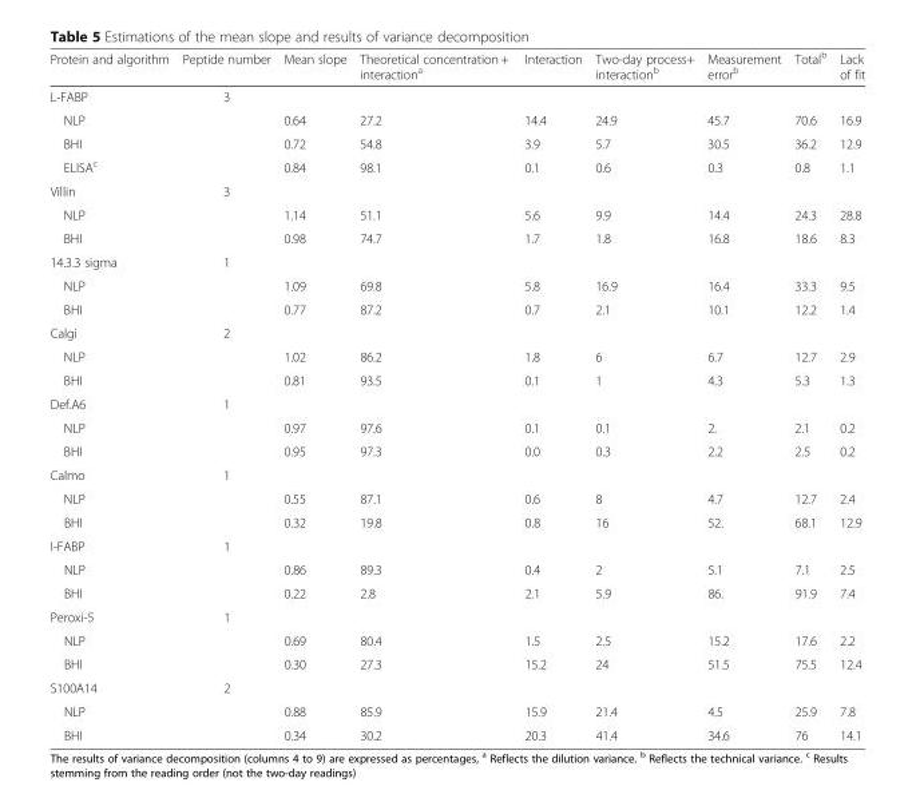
<table><thead><tr><td>Protein and algorithm</td><td>Peptide number</td><td>Mean slope</td><td>Theoretical concentration + interaction<sup>a</sup></td><td>Interaction</td><td>Two-day process+ interaction<sup>b</sup></td><td>Measurement error<sup>b</sup></td><td>Total<sup>b</sup></td><td>Lack of fit</td></tr></thead><tbody><tr><td>L-FABP</td><td>3</td><td></td><td></td><td></td><td></td><td></td><td></td><td></td></tr><tr><td>NLP</td><td></td><td>0.64</td><td>27.2</td><td>14.4</td><td>24.9</td><td>45.7</td><td>70.6</td><td>16.9</td></tr><tr><td>BHI</td><td></td><td>0.72</td><td>54.8</td><td>3.9</td><td>5.7</td><td>30.5</td><td>36.2</td><td>12.9</td></tr><tr><td>ELISA<sup>c</sup></td><td></td><td>0.84</td><td>98.1</td><td>0.1</td><td>0.6</td><td>0.3</td><td>0.8</td><td>1.1</td></tr><tr><td>Villin</td><td>3</td><td></td><td></td><td></td><td></td><td></td><td></td><td></td></tr><tr><td>NLP</td><td></td><td>1.14</td><td>51.1</td><td>5.6</td><td>9.9</td><td>14.4</td><td>24.3</td><td>28.8</td></tr><tr><td>BHI</td><td></td><td>0.98</td><td>74.7</td><td>1.7</td><td>1.8</td><td>16.8</td><td>18.6</td><td>8.3</td></tr><tr><td>14.3.3 sigma</td><td>1</td><td></td><td></td><td></td><td></td><td></td><td></td><td></td></tr><tr><td>NLP</td><td></td><td>1.09</td><td>69.8</td><td>5.8</td><td>16.9</td><td>16.4</td><td>33.3</td><td>9.5</td></tr><tr><td>BHI</td><td></td><td>0.77</td><td>87.2</td><td>0.7</td><td>2.1</td><td>10.1</td><td>12.2</td><td>1.4</td></tr><tr><td>Calgi</td><td>2</td><td></td><td></td><td></td><td></td><td></td><td></td><td></td></tr><tr><td>NLP</td><td></td><td>1.02</td><td>86.2</td><td>1.8</td><td>6</td><td>6.7</td><td>12.7</td><td>2.9</td></tr><tr><td>BHI</td><td></td><td>0.81</td><td>93.5</td><td>0.1</td><td>1</td><td>4.3</td><td>5.3</td><td>1.3</td></tr><tr><td>Def.A6</td><td>1</td><td></td><td></td><td></td><td></td><td></td><td></td><td></td></tr><tr><td>NLP</td><td></td><td>0.97</td><td>97.6</td><td>0.1</td><td>0.1</td><td>2.</td><td>2.1</td><td>0.2</td></tr><tr><td>BHI</td><td></td><td>0.95</td><td>97.3</td><td>0.0</td><td>0.3</td><td>2.2</td><td>2.5</td><td>0.2</td></tr><tr><td>Calmo</td><td>1</td><td></td><td></td><td></td><td></td><td></td><td></td><td></td></tr><tr><td>NLP</td><td></td><td>0.55</td><td>87.1</td><td>0.6</td><td>8</td><td>4.7</td><td>12.7</td><td>2.4</td></tr><tr><td>BHI</td><td></td><td>0.32</td><td>19.8</td><td>0.8</td><td>16</td><td>52.</td><td>68.1</td><td>12.9</td></tr><tr><td>I-FABP</td><td>1</td><td></td><td></td><td></td><td></td><td></td><td></td><td></td></tr><tr><td>NLP</td><td></td><td>0.86</td><td>89.3</td><td>0.4</td><td>2</td><td>5.1</td><td>7.1</td><td>2.5</td></tr><tr><td>BHI</td><td></td><td>0.22</td><td>2.8</td><td>2.1</td><td>5.9</td><td>86.</td><td>91.9</td><td>7.4</td></tr><tr><td>Peroxi-5</td><td>1</td><td></td><td></td><td></td><td></td><td></td><td></td><td></td></tr><tr><td>NLP</td><td></td><td>0.69</td><td>80.4</td><td>1.5</td><td>2.5</td><td>15.2</td><td>17.6</td><td>2.2</td></tr><tr><td>BHI</td><td></td><td>0.30</td><td>27.3</td><td>15.2</td><td>24</td><td>51.5</td><td>75.5</td><td>12.4</td></tr><tr><td>S100A14</td><td>2</td><td></td><td></td><td></td><td></td><td></td><td></td><td></td></tr><tr><td>NLP</td><td></td><td>0.88</td><td>85.9</td><td>15.9</td><td>21.4</td><td>4.5</td><td>25.9</td><td>7.8</td></tr><tr><td>BHI</td><td></td><td>0.34</td><td>30.2</td><td>20.3</td><td>41.4</td><td>34.6</td><td>76</td><td>14.1</td></tr></tbody></table>